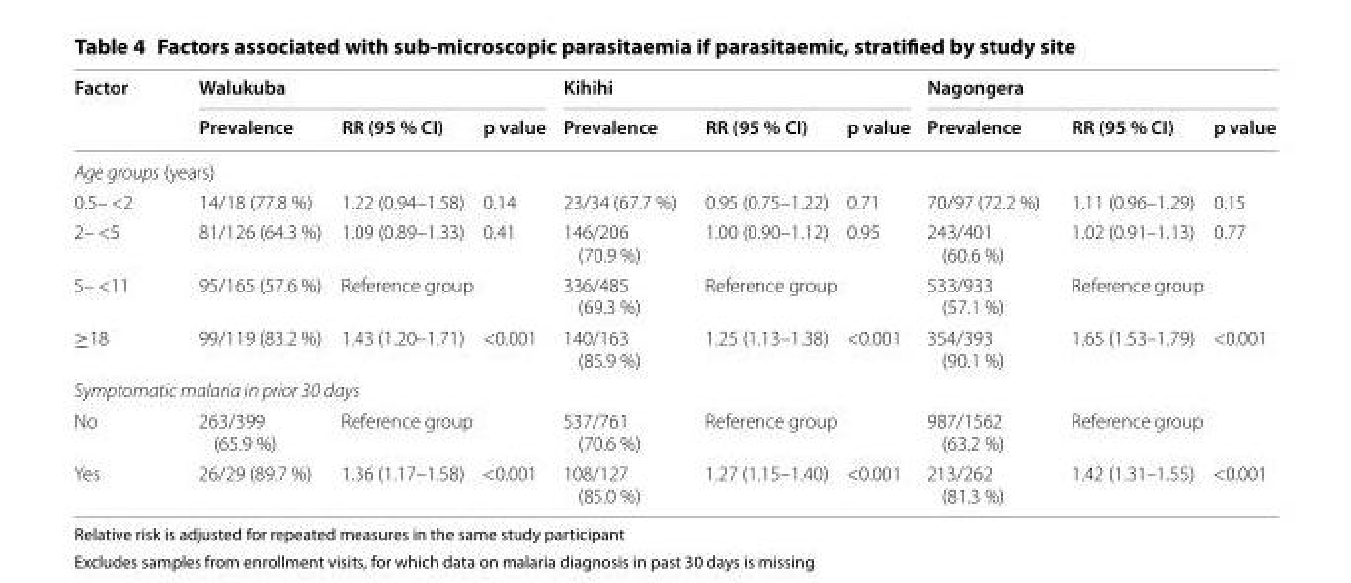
<table><thead><tr><td rowspan="2">Factor</td><td colspan="3">Walukuba</td><td colspan="3">Kihihi</td><td colspan="3">Nagongera</td></tr><tr><td>Prevalence</td><td>RR (95 % CI)</td><td>p value</td><td>Prevalence</td><td>RR (95 % CI)</td><td>p value</td><td>Prevalence</td><td>RR (95 % CI)</td><td>p value</td></tr></thead><tbody><tr><td colspan="10">Age groups (years)</td></tr><tr><td>0.5– &lt;2</td><td>14/18 (77.8 %)</td><td>1.22 (0.94–1.58)</td><td>0.14</td><td>23/34 (67.7 %)</td><td>0.95 (0.75–1.22)</td><td>0.71</td><td>70/97 (72.2 %)</td><td>1.11 (0.96–1.29)</td><td>0.15</td></tr><tr><td>2– &lt;5</td><td>81/126 (64.3 %)</td><td>1.09 (0.89–1.33)</td><td>0.41</td><td>146/206 (70.9 %)</td><td>1.00 (0.90–1.12)</td><td>0.95</td><td>243/401 (60.6 %)</td><td>1.02 (0.91–1.13)</td><td>0.77</td></tr><tr><td>5– &lt;11</td><td>95/165 (57.6 %)</td><td colspan="2">Reference group</td><td>336/485 (69.3 %)</td><td colspan="2">Reference group</td><td>533/933 (57.1 %)</td><td colspan="2">Reference group</td></tr><tr><td>≥18</td><td>99/119 (83.2 %)</td><td>1.43 (1.20–1.71)</td><td>&lt;0.001</td><td>140/163 (85.9 %)</td><td>1.25 (1.13–1.38)</td><td>&lt;0.001</td><td>354/393 (90.1 %)</td><td>1.65 (1.53–1.79)</td><td>&lt;0.001</td></tr><tr><td colspan="10">Symptomatic malaria in prior 30 days</td></tr><tr><td>No</td><td>263/399 (65.9 %)</td><td colspan="2">Reference group</td><td>537/761 (70.6 %)</td><td colspan="2">Reference group</td><td>987/1562 (63.2 %)</td><td colspan="2">Reference group</td></tr><tr><td>Yes</td><td>26/29 (89.7 %)</td><td>1.36 (1.17–1.58)</td><td>&lt;0.001</td><td>108/127 (85.0 %)</td><td>1.27 (1.15–1.40)</td><td>&lt;0.001</td><td>213/262 (81.3 %)</td><td>1.42 (1.31–1.55)</td><td>&lt;0.001</td></tr></tbody></table>